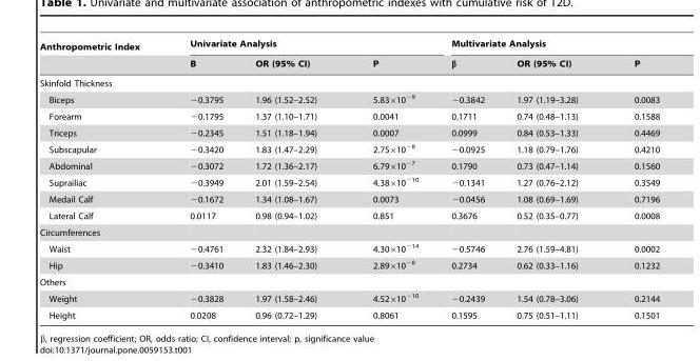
<table><thead><tr><td rowspan="2">Anthropometric Index</td><td colspan="3">Univariate Analysis</td><td colspan="3">Multivariate Analysis</td></tr><tr><td>B</td><td>OR (95% CI)</td><td>P</td><td>β</td><td>OR (95% CI)</td><td>P</td></tr></thead><tbody><tr><td colspan="7">Skinfold Thickness</td></tr><tr><td>Biceps</td><td>−0.3795</td><td>1.96 (1.52–2.52)</td><td>5.83×10<sup>−9</sup></td><td>−0.3842</td><td>1.97 (1.19–3.28)</td><td>0.0083</td></tr><tr><td>Forearm</td><td>−0.1795</td><td>1.37 (1.10–1.71)</td><td>0.0041</td><td>0.1711</td><td>0.74 (0.48–1.13)</td><td>0.1588</td></tr><tr><td>Triceps</td><td>−0.2345</td><td>1.51 (1.18–1.94)</td><td>0.0007</td><td>0.0999</td><td>0.84 (0.53–1.33)</td><td>0.4469</td></tr><tr><td>Subscapular</td><td>−0.3420</td><td>1.83 (1.47–2.29)</td><td>2.75×10<sup>−8</sup></td><td>−0.0925</td><td>1.18 (0.79–1.76)</td><td>0.4210</td></tr><tr><td>Abdominal</td><td>−0.3072</td><td>1.72 (1.36–2.17)</td><td>6.79×10<sup>−7</sup></td><td>0.1790</td><td>0.73 (0.47–1.14)</td><td>0.1560</td></tr><tr><td>Suprailiac</td><td>−0.3949</td><td>2.01 (1.59–2.54)</td><td>4.38×10<sup>−10</sup></td><td>−0.1341</td><td>1.27 (0.76–2.12)</td><td>0.3549</td></tr><tr><td>Medail Calf</td><td>−0.1672</td><td>1.34 (1.08–1.67)</td><td>0.0073</td><td>−0.0456</td><td>1.08 (0.69–1.69)</td><td>0.7196</td></tr><tr><td>Lateral Calf</td><td>0.0117</td><td>0.98 (0.94–1.02)</td><td>0.851</td><td>0.3676</td><td>0.52 (0.35–0.77)</td><td>0.0008</td></tr><tr><td colspan="7">Circumferences</td></tr><tr><td>Waist</td><td>−0.4761</td><td>2.32 (1.84–2.93)</td><td>4.30×10<sup>−14</sup></td><td>−0.5746</td><td>2.76 (1.59–4.81)</td><td>0.0002</td></tr><tr><td>Hip</td><td>−0.3410</td><td>1.83 (1.46–2.30)</td><td>2.89×10<sup>−8</sup></td><td>0.2734</td><td>0.62 (0.33–1.16)</td><td>0.1232</td></tr><tr><td colspan="7">Others</td></tr><tr><td>Weight</td><td>−0.3828</td><td>1.97 (1.58–2.46)</td><td>4.52×10<sup>−10</sup></td><td>−0.2439</td><td>1.54 (0.78–3.06)</td><td>0.2144</td></tr><tr><td>Height</td><td>0.0208</td><td>0.96 (0.72–1.29)</td><td>0.8061</td><td>0.1595</td><td>0.75 (0.51–1.11)</td><td>0.1501</td></tr></tbody></table>